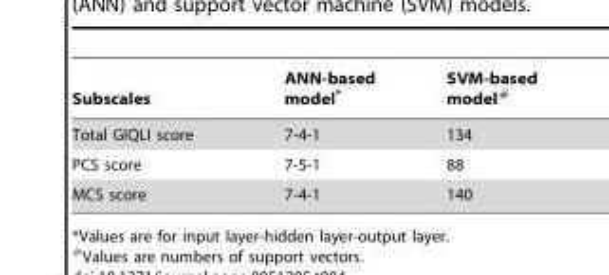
<table><thead><tr><td>Subscales</td><td>ANN-based model*</td><td>SVM-based model#</td></tr></thead><tbody><tr><td>Total GIQLI score</td><td>7-4-1</td><td>134</td></tr><tr><td>PCS score</td><td>7-5-1</td><td>88</td></tr><tr><td>MCS score</td><td>7-4-1</td><td>140</td></tr></tbody></table>